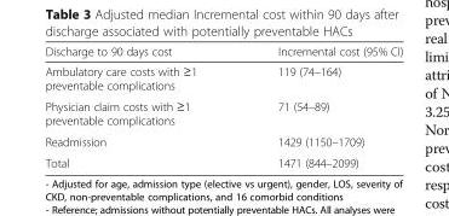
<table><thead><tr><td>Discharge to 90 days cost</td><td>Incremental cost (95% CI)</td></tr></thead><tbody><tr><td>Ambulatory care costs with ≥1 preventable complications</td><td>119 (74–164)</td></tr><tr><td>Physician claim costs with ≥1 preventable complications</td><td>71 (54–89)</td></tr><tr><td>Readmission</td><td>1429 (1150–1709)</td></tr><tr><td>Total</td><td>1471 (844–2099)</td></tr></tbody></table>